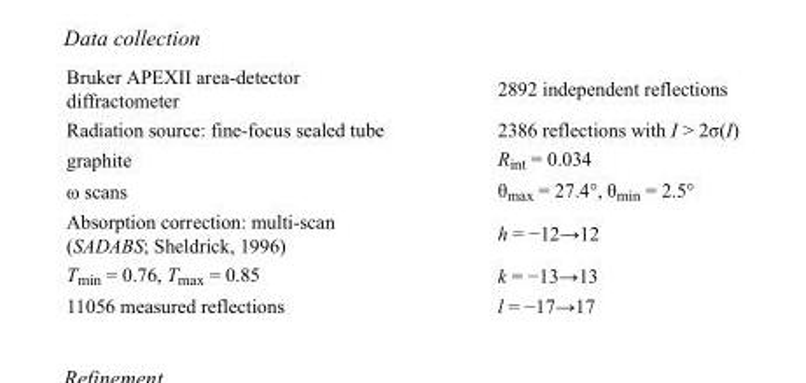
<table><tbody><tr><td>Bruker APEXII area-detector diffractometer</td><td>2892 independent reflections</td></tr><tr><td>Radiation source: fine-focus sealed tube</td><td>2386 reflections with I &gt; 2σ(I)</td></tr><tr><td>graphite</td><td>R<sub>int</sub> = 0.034</td></tr><tr><td>ω scans</td><td>θ<sub>max</sub> = 27.4°, θ<sub>min</sub> = 2.5°</td></tr><tr><td>Absorption correction: multi-scan (SADABS; Sheldrick, 1996)</td><td>h = −12→12</td></tr><tr><td>T<sub>min</sub> = 0.76, T<sub>max</sub> = 0.85</td><td>k = −13→13</td></tr><tr><td>11056 measured reflections</td><td>l = −17→17</td></tr></tbody></table>